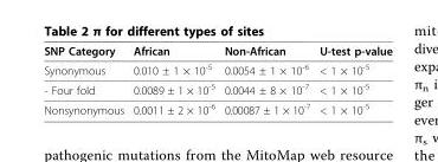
<table><thead><tr><td>SNP Category</td><td>African</td><td>Non-African</td><td>U-test p-value</td></tr></thead><tbody><tr><td>Synonymous</td><td>0.010 ± 1 × 10<sup>-5</sup></td><td>0.0054 ± 1 × 10<sup>-6</sup></td><td>&lt; 1 × 10<sup>-5</sup></td></tr><tr><td>- Four fold</td><td>0.0089 ± 1 × 10<sup>-5</sup></td><td>0.0044 ± 8 × 10<sup>-7</sup></td><td>&lt; 1 × 10<sup>-5</sup></td></tr><tr><td>Nonsynonymous</td><td>0.0011 ± 2 × 10<sup>-6</sup></td><td>0.00087 ± 1 × 10<sup>-7</sup></td><td>&lt; 1 × 10<sup>-5</sup></td></tr></tbody></table>